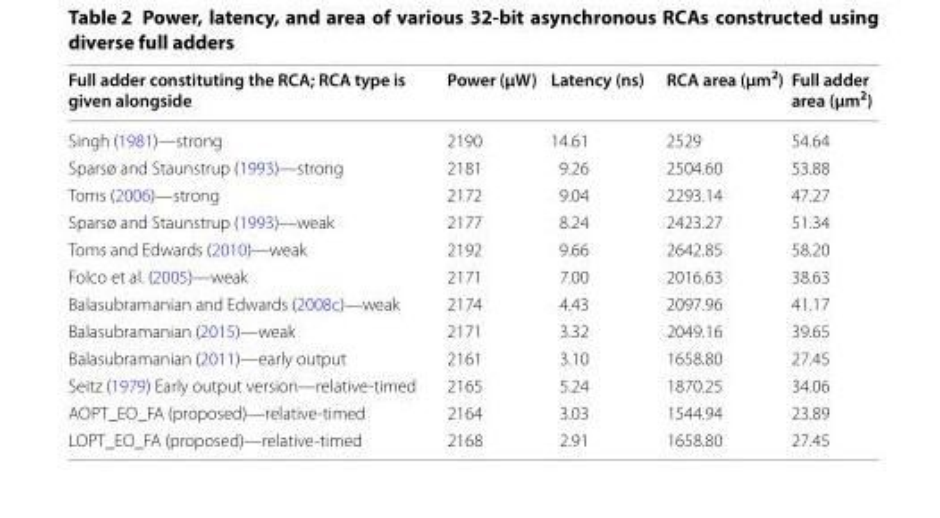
<table><thead><tr><td>Full adder constituting the RCA; RCA type is given alongside</td><td>Power (µW)</td><td>Latency (ns)</td><td>RCA area (µm<sup>2</sup>)</td><td>Full adder area (µm<sup>2</sup>)</td></tr></thead><tbody><tr><td>Singh (1981)—strong</td><td>2190</td><td>14.61</td><td>2529</td><td>54.64</td></tr><tr><td>Sparsø and Staunstrup (1993)—strong</td><td>2181</td><td>9.26</td><td>2504.60</td><td>53.88</td></tr><tr><td>Toms (2006)—strong</td><td>2172</td><td>9.04</td><td>2293.14</td><td>47.27</td></tr><tr><td>Sparsø and Staunstrup (1993)—weak</td><td>2177</td><td>8.24</td><td>2423.27</td><td>51.34</td></tr><tr><td>Toms and Edwards (2010)—weak</td><td>2192</td><td>9.66</td><td>2642.85</td><td>58.20</td></tr><tr><td>Folco et al. (2005)—weak</td><td>2171</td><td>7.00</td><td>2016.63</td><td>38.63</td></tr><tr><td>Balasubramanian and Edwards (2008c)—weak</td><td>2174</td><td>4.43</td><td>2097.96</td><td>41.17</td></tr><tr><td>Balasubramanian (2015)—weak</td><td>2171</td><td>3.32</td><td>2049.16</td><td>39.65</td></tr><tr><td>Balasubramanian (2011)—early output</td><td>2161</td><td>3.10</td><td>1658.80</td><td>27.45</td></tr><tr><td>Seitz (1979) Early output version—relative-timed</td><td>2165</td><td>5.24</td><td>1870.25</td><td>34.06</td></tr><tr><td>AOPT_EO_FA (proposed)—relative-timed</td><td>2164</td><td>3.03</td><td>1544.94</td><td>23.89</td></tr><tr><td>LOPT_EO_FA (proposed)—relative-timed</td><td>2168</td><td>2.91</td><td>1658.80</td><td>27.45</td></tr></tbody></table>